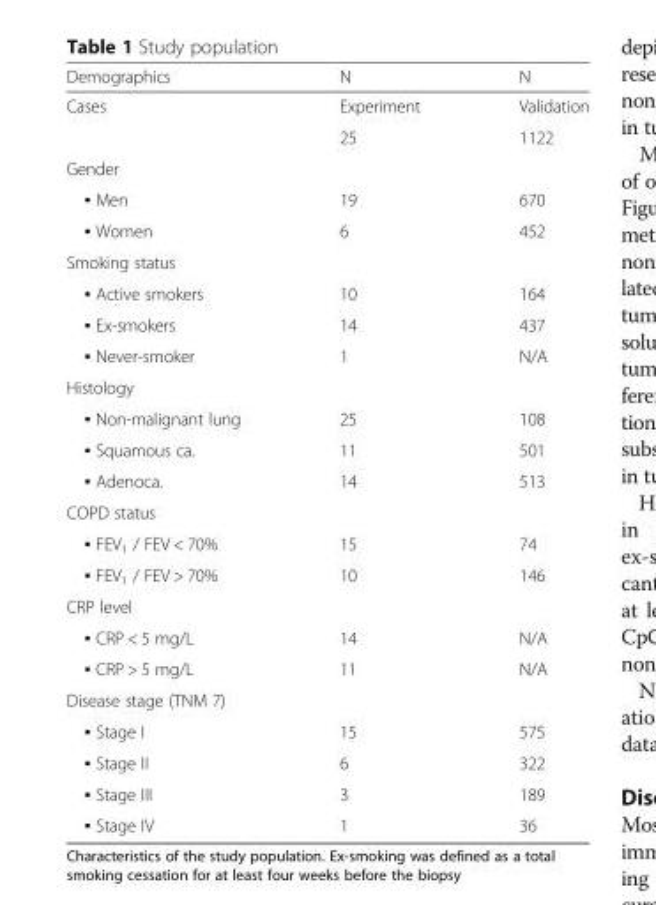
<table><thead><tr><td>Demographics</td><td>N</td><td>N</td></tr></thead><tbody><tr><td rowspan="2">Cases</td><td>Experiment</td><td>Validation</td></tr><tr><td>25</td><td>1122</td></tr><tr><td colspan="3">Gender</td></tr><tr><td>▪ Men</td><td>19</td><td>670</td></tr><tr><td>▪ Women</td><td>6</td><td>452</td></tr><tr><td colspan="3">Smoking status</td></tr><tr><td>▪ Active smokers</td><td>10</td><td>164</td></tr><tr><td>▪ Ex-smokers</td><td>14</td><td>437</td></tr><tr><td>▪ Never-smoker</td><td>1</td><td>N/A</td></tr><tr><td colspan="3">Histology</td></tr><tr><td>▪ Non-malignant lung</td><td>25</td><td>108</td></tr><tr><td>▪ Squamous ca.</td><td>11</td><td>501</td></tr><tr><td>▪ Adenoca.</td><td>14</td><td>513</td></tr><tr><td colspan="3">COPD status</td></tr><tr><td>▪ FEV<sub>1</sub> / FEV &lt; 70%</td><td>15</td><td>74</td></tr><tr><td>▪ FEV<sub>1</sub> / FEV &gt; 70%</td><td>10</td><td>146</td></tr><tr><td colspan="3">CRP level</td></tr><tr><td>▪ CRP &lt; 5 mg/L</td><td>14</td><td>N/A</td></tr><tr><td>▪ CRP &gt; 5 mg/L</td><td>11</td><td>N/A</td></tr><tr><td colspan="3">Disease stage (TNM 7)</td></tr><tr><td>▪ Stage I</td><td>15</td><td>575</td></tr><tr><td>▪ Stage II</td><td>6</td><td>322</td></tr><tr><td>▪ Stage III</td><td>3</td><td>189</td></tr><tr><td>▪ Stage IV</td><td>1</td><td>36</td></tr></tbody></table>